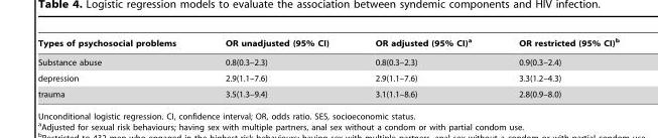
<table><thead><tr><td>Types of psychosocial problems</td><td>OR unadjusted (95% CI)</td><td>OR adjusted (95% CI)<sup>a</sup></td><td>OR restricted (95% CI)<sup>b</sup></td></tr></thead><tbody><tr><td>Substance abuse</td><td>0.8(0.3–2.3)</td><td>0.8(0.3–2.3)</td><td>0.9(0.3–2.4)</td></tr><tr><td>depression</td><td>2.9(1.1–7.6)</td><td>2.9(1.1–7.6)</td><td>3.3(1.2–4.3)</td></tr><tr><td>trauma</td><td>3.5(1.3–9.4)</td><td>3.1(1.1–8.6)</td><td>2.8(0.9–8.0)</td></tr></tbody></table>